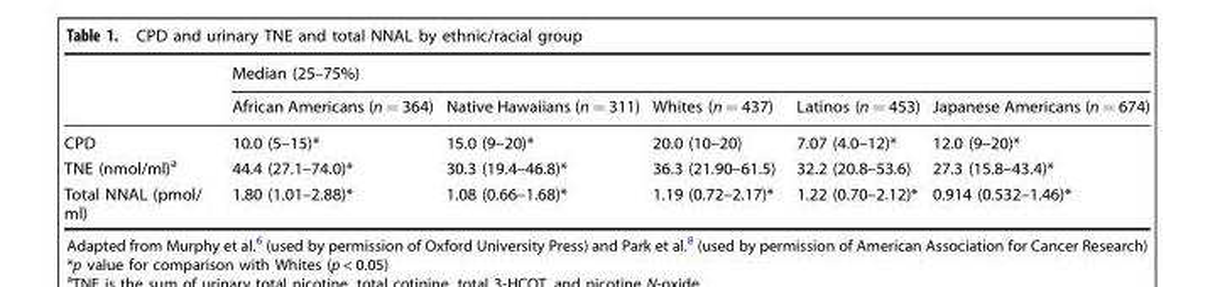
<table><thead><tr><td rowspan="2"></td><td colspan="5">Median (25–75%)</td></tr><tr><td>African Americans (n = 364)</td><td>Native Hawaiians (n = 311)</td><td>Whites (n = 437)</td><td>Latinos (n = 453)</td><td>Japanese Americans (n = 674)</td></tr></thead><tbody><tr><td>CPD</td><td>10.0 (5–15)*</td><td>15.0 (9–20)*</td><td>20.0 (10–20)</td><td>7.07 (4.0–12)*</td><td>12.0 (9–20)*</td></tr><tr><td>TNE (nmol/ml)<sup>a</sup></td><td>44.4 (27.1–74.0)*</td><td>30.3 (19.4–46.8)*</td><td>36.3 (21.90–61.5)</td><td>32.2 (20.8–53.6)</td><td>27.3 (15.8–43.4)*</td></tr><tr><td>Total NNAL (pmol/ ml)</td><td>1.80 (1.01–2.88)*</td><td>1.08 (0.66–1.68)*</td><td>1.19 (0.72–2.17)*</td><td>1.22 (0.70–2.12)*</td><td>0.914 (0.532–1.46)*</td></tr></tbody></table>